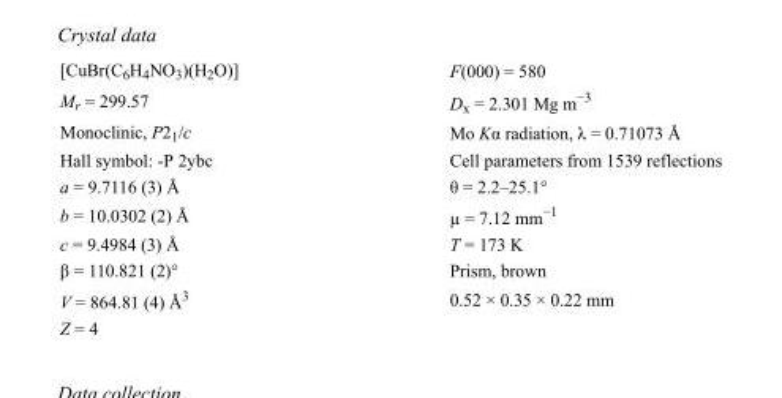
<table><tbody><tr><td>[CuBr(C<sub>6</sub>H<sub>4</sub>NO<sub>3</sub>)(H<sub>2</sub>O)]</td><td>F(000) = 580</td></tr><tr><td>M<sub>r</sub> = 299.57</td><td>D<sub>x</sub> = 2.301 Mg m<sup>−3</sup></td></tr><tr><td>Monoclinic, P2<sub>1</sub>/c</td><td>Mo Kα radiation, λ = 0.71073 Å</td></tr><tr><td>Hall symbol: -P 2ybc</td><td>Cell parameters from 1539 reflections</td></tr><tr><td>a = 9.7116 (3) Å</td><td>θ = 2.2–25.1°</td></tr><tr><td>b = 10.0302 (2) Å</td><td>µ = 7.12 mm<sup>−1</sup></td></tr><tr><td>c = 9.4984 (3) Å</td><td>T = 173 K</td></tr><tr><td>β = 110.821 (2)°</td><td>Prism, brown</td></tr><tr><td>V = 864.81 (4) Å<sup>3</sup></td><td>0.52 × 0.35 × 0.22 mm</td></tr><tr><td>Z = 4</td><td></td></tr></tbody></table>